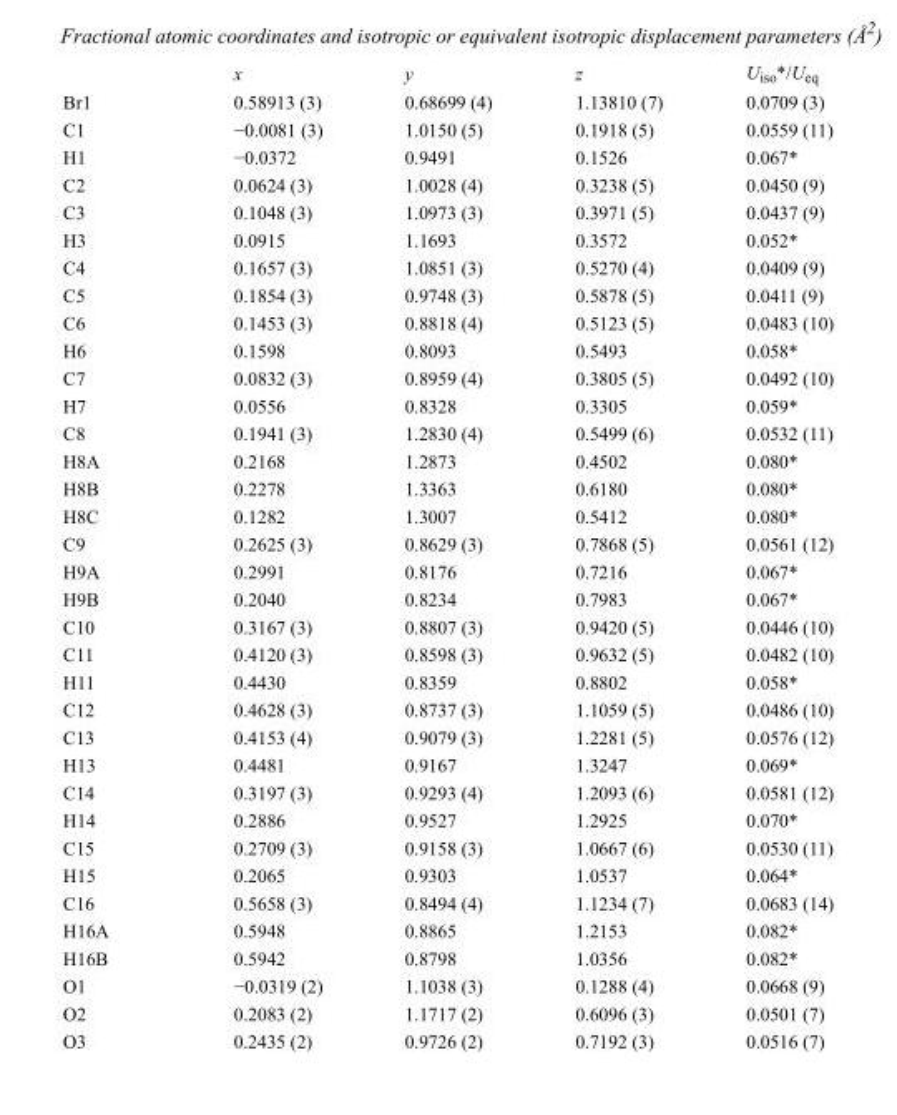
<table><thead><tr><td></td><td>x</td><td>y</td><td>z</td><td>U<sub>iso</sub>*/U<sub>eq</sub></td></tr></thead><tbody><tr><td>Br1</td><td>0.58913 (3)</td><td>0.68699 (4)</td><td>1.13810 (7)</td><td>0.0709 (3)</td></tr><tr><td>C1</td><td>−0.0081 (3)</td><td>1.0150 (5)</td><td>0.1918 (5)</td><td>0.0559 (11)</td></tr><tr><td>H1</td><td>−0.0372</td><td>0.9491</td><td>0.1526</td><td>0.067*</td></tr><tr><td>C2</td><td>0.0624 (3)</td><td>1.0028 (4)</td><td>0.3238 (5)</td><td>0.0450 (9)</td></tr><tr><td>C3</td><td>0.1048 (3)</td><td>1.0973 (3)</td><td>0.3971 (5)</td><td>0.0437 (9)</td></tr><tr><td>H3</td><td>0.0915</td><td>1.1693</td><td>0.3572</td><td>0.052*</td></tr><tr><td>C4</td><td>0.1657 (3)</td><td>1.0851 (3)</td><td>0.5270 (4)</td><td>0.0409 (9)</td></tr><tr><td>C5</td><td>0.1854 (3)</td><td>0.9748 (3)</td><td>0.5878 (5)</td><td>0.0411 (9)</td></tr><tr><td>C6</td><td>0.1453 (3)</td><td>0.8818 (4)</td><td>0.5123 (5)</td><td>0.0483 (10)</td></tr><tr><td>H6</td><td>0.1598</td><td>0.8093</td><td>0.5493</td><td>0.058*</td></tr><tr><td>C7</td><td>0.0832 (3)</td><td>0.8959 (4)</td><td>0.3805 (5)</td><td>0.0492 (10)</td></tr><tr><td>H7</td><td>0.0556</td><td>0.8328</td><td>0.3305</td><td>0.059*</td></tr><tr><td>C8</td><td>0.1941 (3)</td><td>1.2830 (4)</td><td>0.5499 (6)</td><td>0.0532 (11)</td></tr><tr><td>H8A</td><td>0.2168</td><td>1.2873</td><td>0.4502</td><td>0.080*</td></tr><tr><td>H8B</td><td>0.2278</td><td>1.3363</td><td>0.6180</td><td>0.080*</td></tr><tr><td>H8C</td><td>0.1282</td><td>1.3007</td><td>0.5412</td><td>0.080*</td></tr><tr><td>C9</td><td>0.2625 (3)</td><td>0.8629 (3)</td><td>0.7868 (5)</td><td>0.0561 (12)</td></tr><tr><td>H9A</td><td>0.2991</td><td>0.8176</td><td>0.7216</td><td>0.067*</td></tr><tr><td>H9B</td><td>0.2040</td><td>0.8234</td><td>0.7983</td><td>0.067*</td></tr><tr><td>C10</td><td>0.3167 (3)</td><td>0.8807 (3)</td><td>0.9420 (5)</td><td>0.0446 (10)</td></tr><tr><td>C11</td><td>0.4120 (3)</td><td>0.8598 (3)</td><td>0.9632 (5)</td><td>0.0482 (10)</td></tr><tr><td>H11</td><td>0.4430</td><td>0.8359</td><td>0.8802</td><td>0.058*</td></tr><tr><td>C12</td><td>0.4628 (3)</td><td>0.8737 (3)</td><td>1.1059 (5)</td><td>0.0486 (10)</td></tr><tr><td>C13</td><td>0.4153 (4)</td><td>0.9079 (3)</td><td>1.2281 (5)</td><td>0.0576 (12)</td></tr><tr><td>H13</td><td>0.4481</td><td>0.9167</td><td>1.3247</td><td>0.069*</td></tr><tr><td>C14</td><td>0.3197 (3)</td><td>0.9293 (4)</td><td>1.2093 (6)</td><td>0.0581 (12)</td></tr><tr><td>H14</td><td>0.2886</td><td>0.9527</td><td>1.2925</td><td>0.070*</td></tr><tr><td>C15</td><td>0.2709 (3)</td><td>0.9158 (3)</td><td>1.0667 (6)</td><td>0.0530 (11)</td></tr><tr><td>H15</td><td>0.2065</td><td>0.9303</td><td>1.0537</td><td>0.064*</td></tr><tr><td>C16</td><td>0.5658 (3)</td><td>0.8494 (4)</td><td>1.1234 (7)</td><td>0.0683 (14)</td></tr><tr><td>H16A</td><td>0.5948</td><td>0.8865</td><td>1.2153</td><td>0.082*</td></tr><tr><td>H16B</td><td>0.5942</td><td>0.8798</td><td>1.0356</td><td>0.082*</td></tr><tr><td>O1</td><td>−0.0319 (2)</td><td>1.1038 (3)</td><td>0.1288 (4)</td><td>0.0668 (9)</td></tr><tr><td>O2</td><td>0.2083 (2)</td><td>1.1717 (2)</td><td>0.6096 (3)</td><td>0.0501 (7)</td></tr><tr><td>O3</td><td>0.2435 (2)</td><td>0.9726 (2)</td><td>0.7192 (3)</td><td>0.0516 (7)</td></tr></tbody></table>